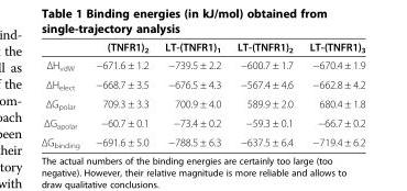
<table><thead><tr><td></td><td>(TNFR1)<sub>2</sub></td><td>LT-(TNFR1)<sub>1</sub></td><td>LT-(TNFR1)<sub>2</sub></td><td>LT-(TNFR1)<sub>3</sub></td></tr></thead><tbody><tr><td>ΔHvdW</td><td>−671.6 ± 1.2</td><td>−739.5 ± 2.2</td><td>−600.7 ± 1.7</td><td>−670.4 ± 1.9</td></tr><tr><td>ΔHelect</td><td>−668.7 ± 3.5</td><td>−676.5 ± 4.3</td><td>−567.4 ± 4.6</td><td>−662.8 ± 4.2</td></tr><tr><td>ΔGpolar</td><td>709.3 ± 3.3</td><td>700.9 ± 4.0</td><td>589.9 ± 2.0</td><td>680.4 ± 1.8</td></tr><tr><td>ΔGapolar</td><td>−60.7 ± 0.1</td><td>−73.4 ± 0.2</td><td>−59.3 ± 0.1</td><td>−66.7 ± 0.2</td></tr><tr><td>ΔGbinding</td><td>−691.6 ± 5.0</td><td>−788.5 ± 6.3</td><td>−637.5 ± 6.4</td><td>−719.4 ± 6.2</td></tr></tbody></table>